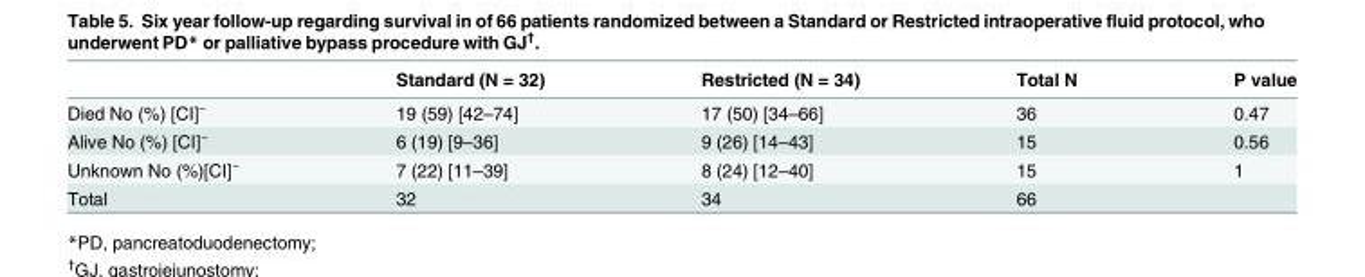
<table><thead><tr><td></td><td>Standard (N = 32)</td><td>Restricted (N = 34)</td><td>Total N</td><td>P value</td></tr></thead><tbody><tr><td>Died No (%) [CI]<sup>~</sup></td><td>19 (59) [42–74]</td><td>17 (50) [34–66]</td><td>36</td><td>0.47</td></tr><tr><td>Alive No (%) [CI]<sup>~</sup></td><td>6 (19) [9–36]</td><td>9 (26) [14–43]</td><td>15</td><td>0.56</td></tr><tr><td>Unknown No (%)[CI]<sup>~</sup></td><td>7 (22) [11–39]</td><td>8 (24) [12–40]</td><td>15</td><td>1</td></tr><tr><td>Total</td><td>32</td><td>34</td><td>66</td><td></td></tr></tbody></table>